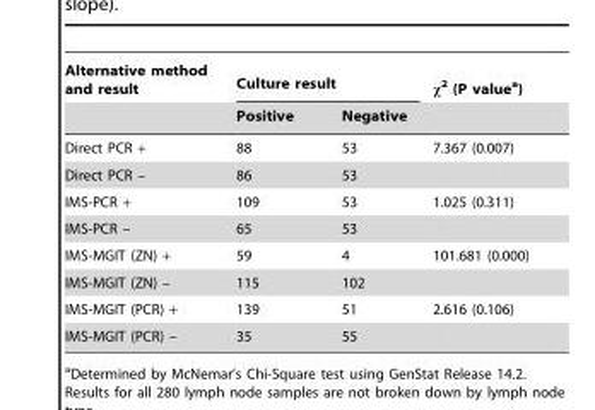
<table><thead><tr><td rowspan="2">Alternative method and result</td><td colspan="2">Culture result</td><td rowspan="2">χ<sup>2</sup> (P value<sup>a</sup>)</td></tr><tr><td>Positive</td><td>Negative</td></tr></thead><tbody><tr><td>Direct PCR +</td><td>88</td><td>53</td><td>7.367 (0.007)</td></tr><tr><td>Direct PCR –</td><td>86</td><td>53</td><td></td></tr><tr><td>IMS-PCR +</td><td>109</td><td>53</td><td>1.025 (0.311)</td></tr><tr><td>IMS-PCR –</td><td>65</td><td>53</td><td></td></tr><tr><td>IMS-MGIT (ZN) +</td><td>59</td><td>4</td><td>101.681 (0.000)</td></tr><tr><td>IMS-MGIT (ZN) –</td><td>115</td><td>102</td><td></td></tr><tr><td>IMS-MGIT (PCR) +</td><td>139</td><td>51</td><td>2.616 (0.106)</td></tr><tr><td>IMS-MGIT (PCR) –</td><td>35</td><td>55</td><td></td></tr></tbody></table>